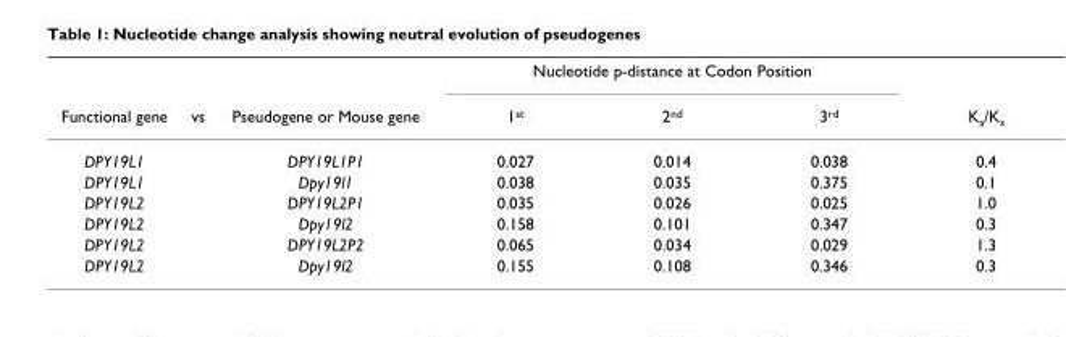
<table><thead><tr><td rowspan="2">Functional gene</td><td rowspan="2">vs</td><td rowspan="2">Pseudogene or Mouse gene</td><td colspan="3">Nucleotide p-distance at Codon Position</td><td rowspan="2">Ka/Ks</td></tr><tr><td>1st</td><td>2nd</td><td>3rd</td></tr></thead><tbody><tr><td>DPY19L1</td><td></td><td>DPY19L1P1</td><td>0.027</td><td>0.014</td><td>0.038</td><td>0.4</td></tr><tr><td>DPY19L1</td><td></td><td>Dpy19l1</td><td>0.038</td><td>0.035</td><td>0.375</td><td>0.1</td></tr><tr><td>DPY19L2</td><td></td><td>DPY19L2P1</td><td>0.035</td><td>0.026</td><td>0.025</td><td>1.0</td></tr><tr><td>DPY19L2</td><td></td><td>Dpy19l2</td><td>0.158</td><td>0.101</td><td>0.347</td><td>0.3</td></tr><tr><td>DPY19L2</td><td></td><td>DPY19L2P2</td><td>0.065</td><td>0.034</td><td>0.029</td><td>1.3</td></tr><tr><td>DPY19L2</td><td></td><td>Dpy19l2</td><td>0.155</td><td>0.108</td><td>0.346</td><td>0.3</td></tr></tbody></table>